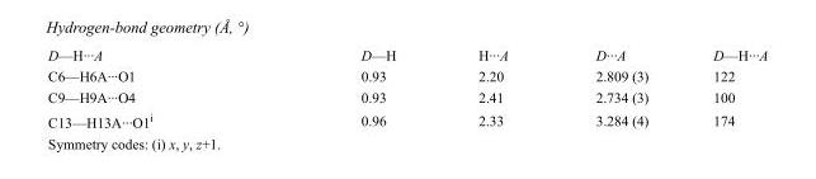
<table><tbody><tr><td>D—H···A</td><td>D—H</td><td>H···A</td><td>D···A</td><td>D—H···A</td></tr><tr><td>C6—H6A···O1</td><td>0.93</td><td>2.20</td><td>2.809 (3)</td><td>122</td></tr><tr><td>C9—H9A···O4</td><td>0.93</td><td>2.41</td><td>2.734 (3)</td><td>100</td></tr><tr><td>C13—H13A···O1<sup>i</sup></td><td>0.96</td><td>2.33</td><td>3.284 (4)</td><td>174</td></tr></tbody></table>